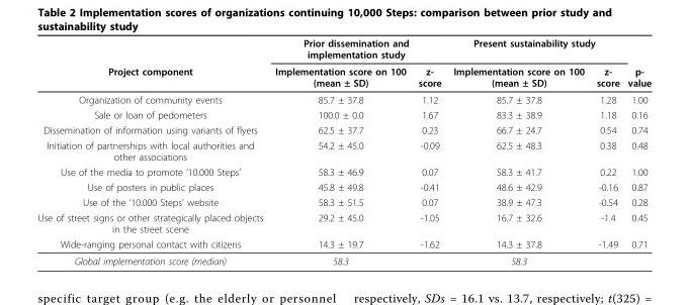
<table><thead><tr><td rowspan="2">Project component</td><td colspan="2">Prior dissemination and implementation study</td><td colspan="2">Present sustainability study</td><td rowspan="2">p- value</td></tr><tr><td>Implementation score on 100 (mean ± SD)</td><td>z- score</td><td>Implementation score on 100 (mean ± SD)</td><td>z- score</td></tr></thead><tbody><tr><td>Organization of community events</td><td>85.7 ± 37.8</td><td>1.12</td><td>85.7 ± 37.8</td><td>1.28</td><td>1.00</td></tr><tr><td>Sale or loan of pedometers</td><td>100.0 ± 0.0</td><td>1.67</td><td>83.3 ± 38.9</td><td>1.18</td><td>0.16</td></tr><tr><td>Dissemination of information using variants of flyers</td><td>62.5 ± 37.7</td><td>0.23</td><td>66.7 ± 24.7</td><td>0.54</td><td>0.74</td></tr><tr><td>Initiation of partnerships with local authorities and other associations</td><td>54.2 ± 45.0</td><td>-0.09</td><td>62.5 ± 48.3</td><td>0.38</td><td>0.48</td></tr><tr><td>Use of the media to promote ‘10.000 Steps’</td><td>58.3 ± 46.9</td><td>0.07</td><td>58.3 ± 41.7</td><td>0.22</td><td>1.00</td></tr><tr><td>Use of posters in public places</td><td>45.8 ± 49.8</td><td>-0.41</td><td>48.6 ± 42.9</td><td>-0.16</td><td>0.87</td></tr><tr><td>Use of the ‘10.000 Steps’ website</td><td>58.3 ± 51.5</td><td>0.07</td><td>38.9 ± 47.3</td><td>-0.54</td><td>0.28</td></tr><tr><td>Use of street signs or other strategically placed objects in the street scene</td><td>29.2 ± 45.0</td><td>-1.05</td><td>16.7 ± 32.6</td><td>-1.4</td><td>0.45</td></tr><tr><td>Wide-ranging personal contact with citizens</td><td>14.3 ± 19.7</td><td>-1.62</td><td>14.3 ± 37.8</td><td>-1.49</td><td>0.71</td></tr><tr><td>Global implementation score (median)</td><td>58.3</td><td></td><td>58.3</td><td colspan="2"></td></tr></tbody></table>